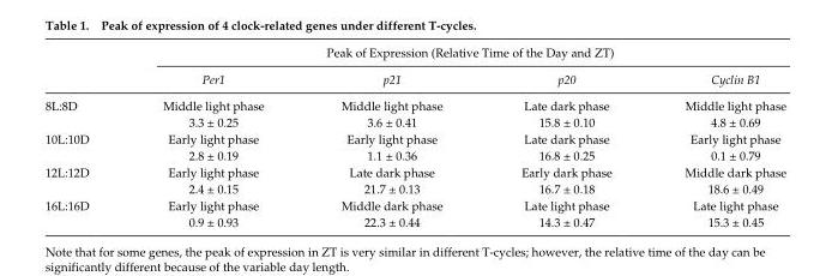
<table><thead><tr><td rowspan="2"></td><td colspan="4">Peak of Expression (Relative Time of the Day and ZT)</td></tr><tr><td>Per1</td><td>p21</td><td>p20</td><td>Cyclin B1</td></tr></thead><tbody><tr><td rowspan="2">8L:8D</td><td>Middle light phase</td><td>Middle light phase</td><td>Late dark phase</td><td>Middle light phase</td></tr><tr><td>3.3 ± 0.25</td><td>3.6 ± 0.41</td><td>15.8 ± 0.10</td><td>4.8 ± 0.69</td></tr><tr><td rowspan="2">10L:10D</td><td>Early light phase</td><td>Early light phase</td><td>Late dark phase</td><td>Early light phase</td></tr><tr><td>2.8 ± 0.19</td><td>1.1 ± 0.36</td><td>16.8 ± 0.25</td><td>0.1 ± 0.79</td></tr><tr><td rowspan="2">12L:12D</td><td>Early light phase</td><td>Late dark phase</td><td>Early dark phase</td><td>Middle dark phase</td></tr><tr><td>2.4 ± 0.15</td><td>21.7 ± 0.13</td><td>16.7 ± 0.18</td><td>18.6 ± 0.49</td></tr><tr><td rowspan="2">16L:16D</td><td>Early light phase</td><td>Middle dark phase</td><td>Late light phase</td><td>Late light phase</td></tr><tr><td>0.9 ± 0.93</td><td>22.3 ± 0.44</td><td>14.3 ± 0.47</td><td>15.3 ± 0.45</td></tr></tbody></table>